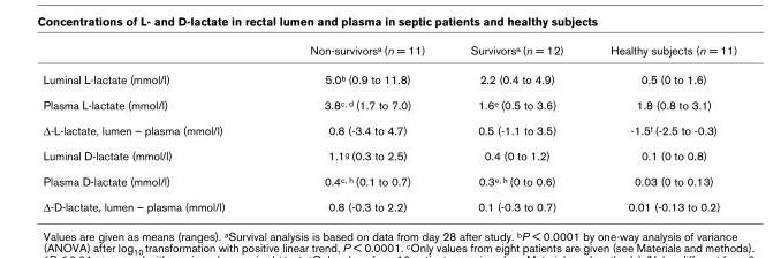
<table><thead><tr><td></td><td>Non-survivorsa (n = 11)</td><td>Survivorsa (n = 12)</td><td>Healthy subjects (n = 11)</td></tr></thead><tbody><tr><td>Luminal L-lactate (mmol/l)</td><td>5.0b (0.9 to 11.8)</td><td>2.2 (0.4 to 4.9)</td><td>0.5 (0 to 1.6)</td></tr><tr><td>Plasma L-lactate (mmol/l)</td><td>3.8c, d (1.7 to 7.0)</td><td>1.6e (0.5 to 3.6)</td><td>1.8 (0.8 to 3.1)</td></tr><tr><td>Δ-L-lactate, lumen – plasma (mmol/l)</td><td>0.8 (-3.4 to 4.7)</td><td>0.5 (-1.1 to 3.5)</td><td>-1.5f (-2.5 to -0.3)</td></tr><tr><td>Luminal D-lactate (mmol/l)</td><td>1.1g (0.3 to 2.5)</td><td>0.4 (0 to 1.2)</td><td>0.1 (0 to 0.8)</td></tr><tr><td>Plasma D-lactate (mmol/l)</td><td>0.4c, h (0.1 to 0.7)</td><td>0.3e, h (0 to 0.6)</td><td>0.03 (0 to 0.13)</td></tr><tr><td>Δ-D-lactate, lumen – plasma (mmol/l)</td><td>0.8 (-0.3 to 2.2)</td><td>0.1 (-0.3 to 0.7)</td><td>0.01 (-0.13 to 0.2)</td></tr></tbody></table>